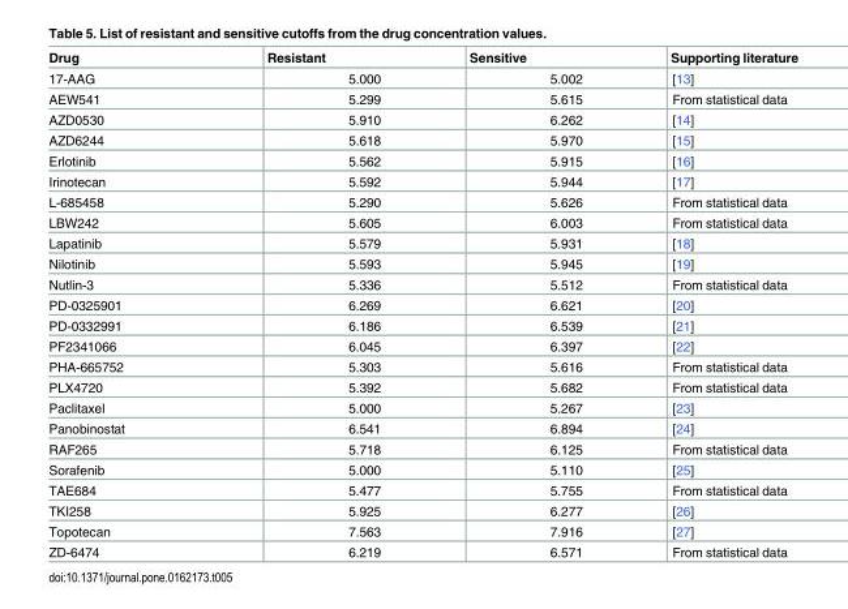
<table><thead><tr><td>Drug</td><td>Resistant</td><td>Sensitive</td><td>Supporting literature</td></tr></thead><tbody><tr><td>17-AAG</td><td>5.000</td><td>5.002</td><td>[13]</td></tr><tr><td>AEW541</td><td>5.299</td><td>5.615</td><td>From statistical data</td></tr><tr><td>AZD0530</td><td>5.910</td><td>6.262</td><td>[14]</td></tr><tr><td>AZD6244</td><td>5.618</td><td>5.970</td><td>[15]</td></tr><tr><td>Erlotinib</td><td>5.562</td><td>5.915</td><td>[16]</td></tr><tr><td>Irinotecan</td><td>5.592</td><td>5.944</td><td>[17]</td></tr><tr><td>L-685458</td><td>5.290</td><td>5.626</td><td>From statistical data</td></tr><tr><td>LBW242</td><td>5.605</td><td>6.003</td><td>From statistical data</td></tr><tr><td>Lapatinib</td><td>5.579</td><td>5.931</td><td>[18]</td></tr><tr><td>Nilotinib</td><td>5.593</td><td>5.945</td><td>[19]</td></tr><tr><td>Nutlin-3</td><td>5.336</td><td>5.512</td><td>From statistical data</td></tr><tr><td>PD-0325901</td><td>6.269</td><td>6.621</td><td>[20]</td></tr><tr><td>PD-0332991</td><td>6.186</td><td>6.539</td><td>[21]</td></tr><tr><td>PF2341066</td><td>6.045</td><td>6.397</td><td>[22]</td></tr><tr><td>PHA-665752</td><td>5.303</td><td>5.616</td><td>From statistical data</td></tr><tr><td>PLX4720</td><td>5.392</td><td>5.682</td><td>From statistical data</td></tr><tr><td>Paclitaxel</td><td>5.000</td><td>5.267</td><td>[23]</td></tr><tr><td>Panobinostat</td><td>6.541</td><td>6.894</td><td>[24]</td></tr><tr><td>RAF265</td><td>5.718</td><td>6.125</td><td>From statistical data</td></tr><tr><td>Sorafenib</td><td>5.000</td><td>5.110</td><td>[25]</td></tr><tr><td>TAE684</td><td>5.477</td><td>5.755</td><td>From statistical data</td></tr><tr><td>TKI258</td><td>5.925</td><td>6.277</td><td>[26]</td></tr><tr><td>Topotecan</td><td>7.563</td><td>7.916</td><td>[27]</td></tr><tr><td>ZD-6474</td><td>6.219</td><td>6.571</td><td>From statistical data</td></tr></tbody></table>